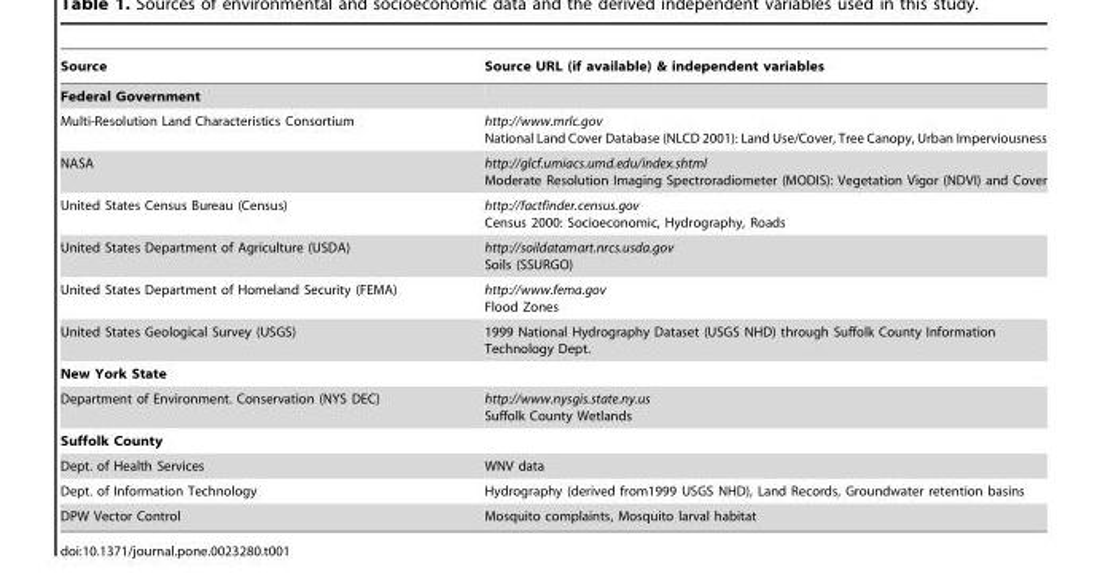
<table><thead><tr><td>Source</td><td>Source URL (if available) &amp; independent variables</td></tr></thead><tbody><tr><td colspan="2">Federal Government</td></tr><tr><td>Multi-Resolution Land Characteristics Consortium</td><td>http://www.mrlc.gov National Land Cover Database (NLCD 2001): Land Use/Cover, Tree Canopy, Urban Imperviousness</td></tr><tr><td>NASA</td><td>http://glcf.umiacs.umd.edu/index.shtml Moderate Resolution Imaging Spectroradiometer (MODIS): Vegetation Vigor (NDVI) and Cover</td></tr><tr><td>United States Census Bureau (Census)</td><td>http://factfinder.census.gov Census 2000: Socioeconomic, Hydrography, Roads</td></tr><tr><td>United States Department of Agriculture (USDA)</td><td>http://soildatamart.nrcs.usda.gov Soils (SSURGO)</td></tr><tr><td>United States Department of Homeland Security (FEMA)</td><td>http://www.fema.gov Flood Zones</td></tr><tr><td>United States Geological Survey (USGS)</td><td>1999 National Hydrography Dataset (USGS NHD) through Suffolk County Information Technology Dept.</td></tr><tr><td colspan="2">New York State</td></tr><tr><td>Department of Environment. Conservation (NYS DEC)</td><td>http://www.nysgis.state.ny.us Suffolk County Wetlands</td></tr><tr><td colspan="2">Suffolk County</td></tr><tr><td>Dept. of Health Services</td><td>WNV data</td></tr><tr><td>Dept. of Information Technology</td><td>Hydrography (derived from1999 USGS NHD), Land Records, Groundwater retention basins</td></tr><tr><td>DPW Vector Control</td><td>Mosquito complaints, Mosquito larval habitat</td></tr></tbody></table>